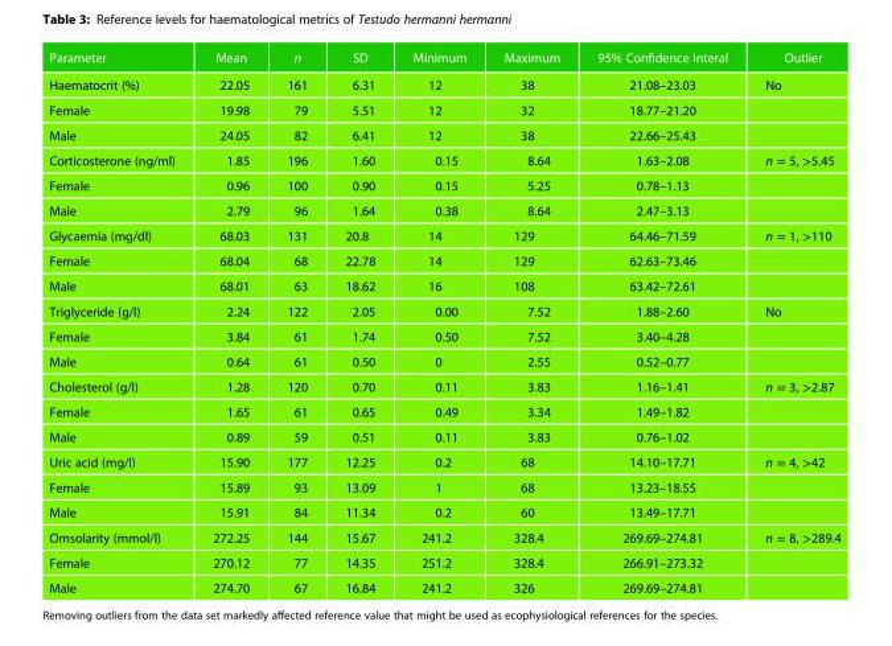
<table><thead><tr><td>Parameter</td><td>Mean</td><td>n</td><td>SD</td><td>Minimum</td><td>Maximum</td><td>95% Confidence interal</td><td>Outlier</td></tr></thead><tbody><tr><td>Haematocrit (%)</td><td>22.05</td><td>161</td><td>6.31</td><td>12</td><td>38</td><td>21.08–23.03</td><td>No</td></tr><tr><td>Female</td><td>19.98</td><td>79</td><td>5.51</td><td>12</td><td>32</td><td>18.77–21.20</td><td></td></tr><tr><td>Male</td><td>24.05</td><td>82</td><td>6.41</td><td>12</td><td>38</td><td>22.66–25.43</td><td></td></tr><tr><td>Corticosterone (ng/ml)</td><td>1.85</td><td>196</td><td>1.60</td><td>0.15</td><td>8.64</td><td>1.63–2.08</td><td>n = 5, &gt;5.45</td></tr><tr><td>Female</td><td>0.96</td><td>100</td><td>0.90</td><td>0.15</td><td>5.25</td><td>0.78–1.13</td><td></td></tr><tr><td>Male</td><td>2.79</td><td>96</td><td>1.64</td><td>0.38</td><td>8.64</td><td>2.47–3.13</td><td></td></tr><tr><td>Glycaemia (mg/dl)</td><td>68.03</td><td>131</td><td>20.8</td><td>14</td><td>129</td><td>64.46–71.59</td><td>n = 1, &gt;110</td></tr><tr><td>Female</td><td>68.04</td><td>68</td><td>22.78</td><td>14</td><td>129</td><td>62.63–73.46</td><td></td></tr><tr><td>Male</td><td>68.01</td><td>63</td><td>18.62</td><td>16</td><td>108</td><td>63.42–72.61</td><td></td></tr><tr><td>Triglyceride (g/l)</td><td>2.24</td><td>122</td><td>2.05</td><td>0.00</td><td>7.52</td><td>1.88–2.60</td><td>No</td></tr><tr><td>Female</td><td>3.84</td><td>61</td><td>1.74</td><td>0.50</td><td>7.52</td><td>3.40–4.28</td><td></td></tr><tr><td>Male</td><td>0.64</td><td>61</td><td>0.50</td><td>0</td><td>2.55</td><td>0.52–0.77</td><td></td></tr><tr><td>Cholesterol (g/l)</td><td>1.28</td><td>120</td><td>0.70</td><td>0.11</td><td>3.83</td><td>1.16–1.41</td><td>n = 3, &gt;2.87</td></tr><tr><td>Female</td><td>1.65</td><td>61</td><td>0.65</td><td>0.49</td><td>3.34</td><td>1.49–1.82</td><td></td></tr><tr><td>Male</td><td>0.89</td><td>59</td><td>0.51</td><td>0.11</td><td>3.83</td><td>0.76–1.02</td><td></td></tr><tr><td>Uric acid (mg/l)</td><td>15.90</td><td>177</td><td>12.25</td><td>0.2</td><td>68</td><td>14.10–17.71</td><td>n = 4, &gt;42</td></tr><tr><td>Female</td><td>15.89</td><td>93</td><td>13.09</td><td>1</td><td>68</td><td>13.23–18.55</td><td></td></tr><tr><td>Male</td><td>15.91</td><td>84</td><td>11.34</td><td>0.2</td><td>60</td><td>13.49–17.71</td><td></td></tr><tr><td>Omsolarity (mmol/l)</td><td>272.25</td><td>144</td><td>15.67</td><td>241.2</td><td>328.4</td><td>269.69–274.81</td><td>n = 8, &gt;289.4</td></tr><tr><td>Female</td><td>270.12</td><td>77</td><td>14.35</td><td>251.2</td><td>328.4</td><td>266.91–273.32</td><td></td></tr><tr><td>Male</td><td>274.70</td><td>67</td><td>16.84</td><td>241.2</td><td>326</td><td>269.69–274.81</td><td></td></tr></tbody></table>